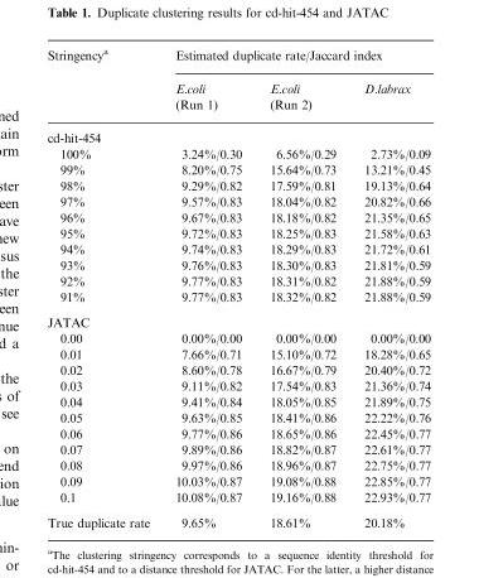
<table><thead><tr><td rowspan="2">Stringency<sup>a</sup></td><td colspan="3">Estimated duplicate rate/Jaccard index</td></tr><tr><td>E.coli (Run 1)</td><td>E.coli (Run 2)</td><td>D.labrax</td></tr></thead><tbody><tr><td colspan="4">cd-hit-454</td></tr><tr><td>100%</td><td>3.24%/0.30</td><td>6.56%/0.29</td><td>2.73%/0.09</td></tr><tr><td>99%</td><td>8.20%/0.75</td><td>15.64%/0.73</td><td>13.21%/0.45</td></tr><tr><td>98%</td><td>9.29%/0.82</td><td>17.59%/0.81</td><td>19.13%/0.64</td></tr><tr><td>97%</td><td>9.57%/0.83</td><td>18.04%/0.82</td><td>20.82%/0.66</td></tr><tr><td>96%</td><td>9.67%/0.83</td><td>18.18%/0.82</td><td>21.35%/0.65</td></tr><tr><td>95%</td><td>9.72%/0.83</td><td>18.25%/0.83</td><td>21.58%/0.63</td></tr><tr><td>94%</td><td>9.74%/0.83</td><td>18.29%/0.83</td><td>21.72%/0.61</td></tr><tr><td>93%</td><td>9.76%/0.83</td><td>18.30%/0.83</td><td>21.81%/0.59</td></tr><tr><td>92%</td><td>9.77%/0.83</td><td>18.31%/0.82</td><td>21.88%/0.59</td></tr><tr><td>91%</td><td>9.77%/0.83</td><td>18.32%/0.82</td><td>21.88%/0.59</td></tr><tr><td colspan="4">JATAC</td></tr><tr><td>0.00</td><td>0.00%/0.00</td><td>0.00%/0.00</td><td>0.00%/0.00</td></tr><tr><td>0.01</td><td>7.66%/0.71</td><td>15.10%/0.72</td><td>18.28%/0.65</td></tr><tr><td>0.02</td><td>8.60%/0.78</td><td>16.67%/0.79</td><td>20.40%/0.72</td></tr><tr><td>0.03</td><td>9.11%/0.82</td><td>17.54%/0.83</td><td>21.36%/0.74</td></tr><tr><td>0.04</td><td>9.41%/0.84</td><td>18.05%/0.85</td><td>21.89%/0.75</td></tr><tr><td>0.05</td><td>9.63%/0.85</td><td>18.41%/0.86</td><td>22.22%/0.76</td></tr><tr><td>0.06</td><td>9.77%/0.86</td><td>18.65%/0.86</td><td>22.45%/0.77</td></tr><tr><td>0.07</td><td>9.89%/0.86</td><td>18.82%/0.87</td><td>22.61%/0.77</td></tr><tr><td>0.08</td><td>9.97%/0.86</td><td>18.96%/0.87</td><td>22.75%/0.77</td></tr><tr><td>0.09</td><td>10.03%/0.87</td><td>19.08%/0.88</td><td>22.85%/0.77</td></tr><tr><td>0.1</td><td>10.08%/0.87</td><td>19.16%/0.88</td><td>22.93%/0.77</td></tr><tr><td>True duplicate rate</td><td>9.65%</td><td>18.61%</td><td>20.18%</td></tr></tbody></table>